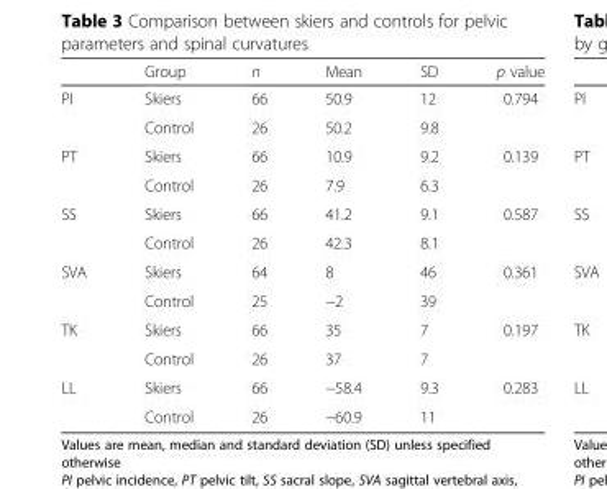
<table><thead><tr><td></td><td>Group</td><td>n</td><td>Mean</td><td>SD</td><td>p value</td></tr></thead><tbody><tr><td rowspan="2">PI</td><td>Skiers</td><td>66</td><td>50.9</td><td>12</td><td rowspan="2">0.794</td></tr><tr><td>Control</td><td>26</td><td>50.2</td><td>9.8</td></tr><tr><td rowspan="2">PT</td><td>Skiers</td><td>66</td><td>10.9</td><td>9.2</td><td rowspan="2">0.139</td></tr><tr><td>Control</td><td>26</td><td>7.9</td><td>6.3</td></tr><tr><td rowspan="2">SS</td><td>Skiers</td><td>66</td><td>41.2</td><td>9.1</td><td rowspan="2">0.587</td></tr><tr><td>Control</td><td>26</td><td>42.3</td><td>8.1</td></tr><tr><td rowspan="2">SVA</td><td>Skiers</td><td>64</td><td>8</td><td>46</td><td rowspan="2">0.361</td></tr><tr><td>Control</td><td>25</td><td>−2</td><td>39</td></tr><tr><td rowspan="2">TK</td><td>Skiers</td><td>66</td><td>35</td><td>7</td><td rowspan="2">0.197</td></tr><tr><td>Control</td><td>26</td><td>37</td><td>7</td></tr><tr><td rowspan="2">LL</td><td>Skiers</td><td>66</td><td>−58.4</td><td>9.3</td><td rowspan="2">0.283</td></tr><tr><td>Control</td><td>26</td><td>−60.9</td><td>11</td></tr></tbody></table>